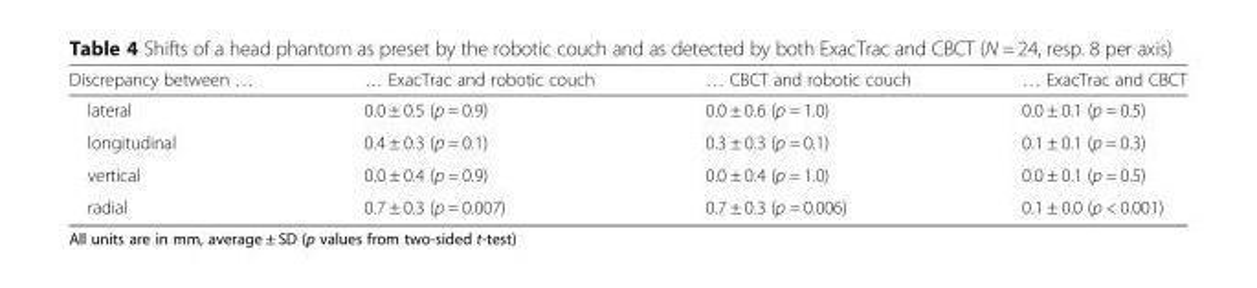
<table><thead><tr><td>Discrepancy between …</td><td>… ExacTrac and robotic couch</td><td>… CBCT and robotic couch</td><td>… ExacTrac and CBCT</td></tr></thead><tbody><tr><td>lateral</td><td>0.0 ± 0.5 (p = 0.9)</td><td>0.0 ± 0.6 (p = 1.0)</td><td>0.0 ± 0.1 (p = 0.5)</td></tr><tr><td>longitudinal</td><td>0.4 ± 0.3 (p = 0.1)</td><td>0.3 ± 0.3 (p = 0.1)</td><td>0.1 ± 0.1 (p = 0.3)</td></tr><tr><td>vertical</td><td>0.0 ± 0.4 (p = 0.9)</td><td>0.0 ± 0.4 (p = 1.0)</td><td>0.0 ± 0.1 (p = 0.5)</td></tr><tr><td>radial</td><td>0.7 ± 0.3 (p = 0.007)</td><td>0.7 ± 0.3 (p = 0.006)</td><td>0.1 ± 0.0 (p &lt; 0.001)</td></tr></tbody></table>